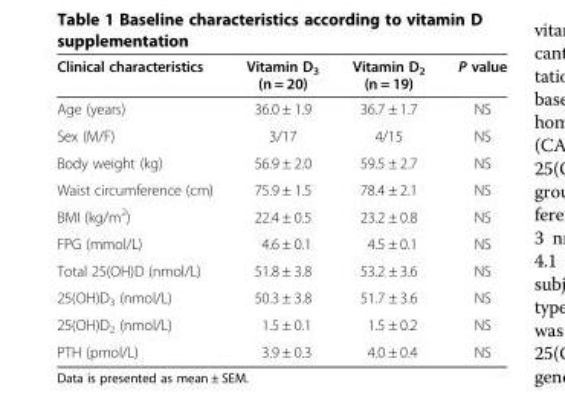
<table><thead><tr><td>Clinical characteristics</td><td>Vitamin D<sub>3</sub> (n = 20)</td><td>Vitamin D<sub>2</sub> (n = 19)</td><td>P value</td></tr></thead><tbody><tr><td>Age (years)</td><td>36.0 ± 1.9</td><td>36.7 ± 1.7</td><td>NS</td></tr><tr><td>Sex (M/F)</td><td>3/17</td><td>4/15</td><td>NS</td></tr><tr><td>Body weight (kg)</td><td>56.9 ± 2.0</td><td>59.5 ± 2.7</td><td>NS</td></tr><tr><td>Waist circumference (cm)</td><td>75.9 ± 1.5</td><td>78.4 ± 2.1</td><td>NS</td></tr><tr><td>BMI (kg/m<sup>2</sup>)</td><td>22.4 ± 0.5</td><td>23.2 ± 0.8</td><td>NS</td></tr><tr><td>FPG (mmol/L)</td><td>4.6 ± 0.1</td><td>4.5 ± 0.1</td><td>NS</td></tr><tr><td>Total 25(OH)D (nmol/L)</td><td>51.8 ± 3.8</td><td>53.2 ± 3.6</td><td>NS</td></tr><tr><td>25(OH)D<sub>3</sub> (nmol/L)</td><td>50.3 ± 3.8</td><td>51.7 ± 3.6</td><td>NS</td></tr><tr><td>25(OH)D<sub>2</sub> (nmol/L)</td><td>1.5 ± 0.1</td><td>1.5 ± 0.2</td><td>NS</td></tr><tr><td>PTH (pmol/L)</td><td>3.9 ± 0.3</td><td>4.0 ± 0.4</td><td>NS</td></tr></tbody></table>